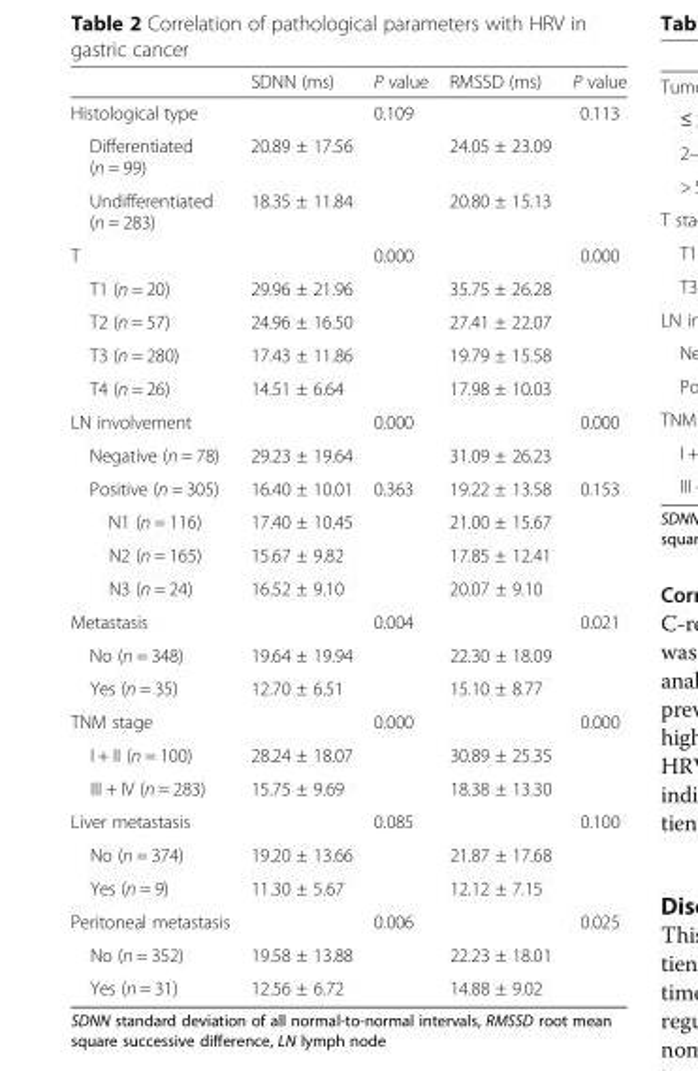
<table><thead><tr><td></td><td>SDNN (ms)</td><td>P value</td><td>RMSSD (ms)</td><td>P value</td></tr></thead><tbody><tr><td>Histological type</td><td></td><td>0.109</td><td></td><td>0.113</td></tr><tr><td>Differentiated (n = 99)</td><td>20.89 ± 17.56</td><td></td><td>24.05 ± 23.09</td><td></td></tr><tr><td>Undifferentiated (n = 283)</td><td>18.35 ± 11.84</td><td></td><td>20.80 ± 15.13</td><td></td></tr><tr><td>T</td><td></td><td>0.000</td><td></td><td>0.000</td></tr><tr><td>T1 (n = 20)</td><td>29.96 ± 21.96</td><td></td><td>35.75 ± 26.28</td><td></td></tr><tr><td>T2 (n = 57)</td><td>24.96 ± 16.50</td><td></td><td>27.41 ± 22.07</td><td></td></tr><tr><td>T3 (n = 280)</td><td>17.43 ± 11.86</td><td></td><td>19.79 ± 15.58</td><td></td></tr><tr><td>T4 (n = 26)</td><td>14.51 ± 6.64</td><td></td><td>17.98 ± 10.03</td><td></td></tr><tr><td>LN involvement</td><td></td><td>0.000</td><td></td><td>0.000</td></tr><tr><td>Negative (n = 78)</td><td>29.23 ± 19.64</td><td></td><td>31.09 ± 26.23</td><td></td></tr><tr><td>Positive (n = 305)</td><td>16.40 ± 10.01</td><td>0.363</td><td>19.22 ± 13.58</td><td>0.153</td></tr><tr><td>N1 (n = 116)</td><td>17.40 ± 10.45</td><td></td><td>21.00 ± 15.67</td><td></td></tr><tr><td>N2 (n = 165)</td><td>15.67 ± 9.82</td><td></td><td>17.85 ± 12.41</td><td></td></tr><tr><td>N3 (n = 24)</td><td>16.52 ± 9.10</td><td></td><td>20.07 ± 9.10</td><td></td></tr><tr><td>Metastasis</td><td></td><td>0.004</td><td></td><td>0.021</td></tr><tr><td>No (n = 348)</td><td>19.64 ± 19.94</td><td></td><td>22.30 ± 18.09</td><td></td></tr><tr><td>Yes (n = 35)</td><td>12.70 ± 6.51</td><td></td><td>15.10 ± 8.77</td><td></td></tr><tr><td>TNM stage</td><td></td><td>0.000</td><td></td><td>0.000</td></tr><tr><td>I + II (n = 100)</td><td>28.24 ± 18.07</td><td></td><td>30.89 ± 25.35</td><td></td></tr><tr><td>III + IV (n = 283)</td><td>15.75 ± 9.69</td><td></td><td>18.38 ± 13.30</td><td></td></tr><tr><td>Liver metastasis</td><td></td><td>0.085</td><td></td><td>0.100</td></tr><tr><td>No (n = 374)</td><td>19.20 ± 13.66</td><td></td><td>21.87 ± 17.68</td><td></td></tr><tr><td>Yes (n = 9)</td><td>11.30 ± 5.67</td><td></td><td>12.12 ± 7.15</td><td></td></tr><tr><td>Peritoneal metastasis</td><td></td><td>0.006</td><td></td><td>0.025</td></tr><tr><td>No (n = 352)</td><td>19.58 ± 13.88</td><td></td><td>22.23 ± 18.01</td><td></td></tr><tr><td>Yes (n = 31)</td><td>12.56 ± 6.72</td><td></td><td>14.88 ± 9.02</td><td></td></tr></tbody></table>